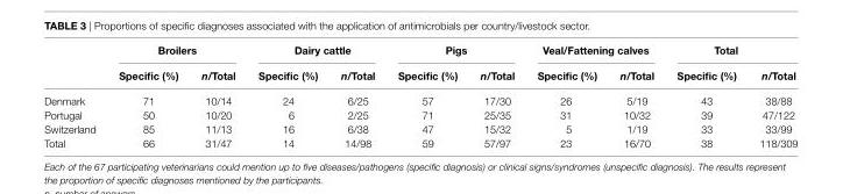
<table><thead><tr><td rowspan="2"></td><td colspan="2">broilers</td><td colspan="2">Dairy cattle</td><td colspan="2">Pigs</td><td colspan="2">Veal/Fattening calves</td><td colspan="2">Total</td></tr><tr><td>specific (%)</td><td>n/Total</td><td>specific (%)</td><td>n/Total</td><td>specific (%)</td><td>n/Total</td><td>specific (%)</td><td>n/Total</td><td>specific (%)</td><td>n/Total</td></tr></thead><tbody><tr><td>Denmark</td><td>71</td><td>10/14</td><td>24</td><td>6/25</td><td>57</td><td>17/30</td><td>26</td><td>5/19</td><td>43</td><td>38/88</td></tr><tr><td>Portugal</td><td>50</td><td>10/20</td><td>6</td><td>2/25</td><td>71</td><td>25/35</td><td>31</td><td>10/32</td><td>39</td><td>47/122</td></tr><tr><td>Switzerland</td><td>85</td><td>11/13</td><td>16</td><td>6/38</td><td>47</td><td>15/32</td><td>5</td><td>1/19</td><td>33</td><td>33/99</td></tr><tr><td>Total</td><td>66</td><td>31/47</td><td>14</td><td>14/98</td><td>59</td><td>57/97</td><td>23</td><td>16/70</td><td>38</td><td>118/309</td></tr></tbody></table>